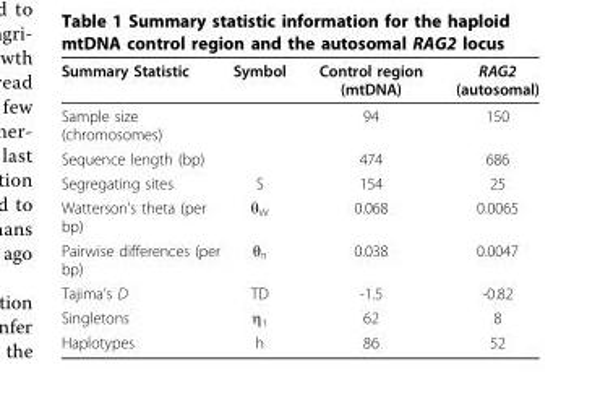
<table><thead><tr><td>Summary Statistic</td><td>Symbol</td><td>Control region (mtDNA)</td><td>RAG2 (autosomal)</td></tr></thead><tbody><tr><td>Sample size (chromosomes)</td><td></td><td>94</td><td>150</td></tr><tr><td>Sequence length (bp)</td><td></td><td>474</td><td>686</td></tr><tr><td>Segregating sites</td><td>S</td><td>154</td><td>25</td></tr><tr><td>Watterson’s theta (per bp)</td><td>θ<sub>W</sub></td><td>0.068</td><td>0.0065</td></tr><tr><td>Pairwise differences (per bp)</td><td>θ<sub>π</sub></td><td>0.038</td><td>0.0047</td></tr><tr><td>Tajima’s D</td><td>TD</td><td>-1.5</td><td>-0.82</td></tr><tr><td>Singletons</td><td>η<sub>1</sub></td><td>62</td><td>8</td></tr><tr><td>Haplotypes</td><td>h</td><td>86</td><td>52</td></tr></tbody></table>